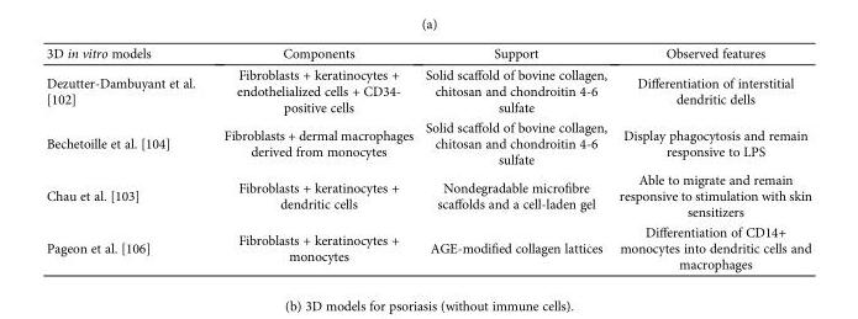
<table><thead><tr><td>3D in vitro models</td><td>Components</td><td>Support</td><td>Observed features</td></tr></thead><tbody><tr><td>Dezutter-Dambuyant et al. [102]</td><td>Fibroblasts + keratinocytes + endothelialized cells + CD34- positive cells</td><td>Solid scaffold of bovine collagen, chitosan and chondroitin 4-6 sulfate</td><td>Differentiation of interstitial dendritic dells</td></tr><tr><td>Bechetoille et al. [104]</td><td>Fibroblasts + dermal macrophages derived from monocytes</td><td>Solid scaffold of bovine collagen, chitosan and chondroitin 4-6 sulfate</td><td>Display phagocytosis and remain responsive to LPS</td></tr><tr><td>Chau et al. [103]</td><td>Fibroblasts + keratinocytes + dendritic cells</td><td>Nondegradable microfibre scaffolds and a cell-laden gel</td><td>Able to migrate and remain responsive to stimulation with skin sensitizers</td></tr><tr><td>Pageon et al. [106]</td><td>Fibroblasts + keratinocytes + monocytes</td><td>AGE-modified collagen lattices</td><td>Differentiation of CD14+ monocytes into dendritic cells and macrophages</td></tr></tbody></table>